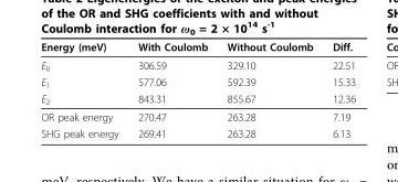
<table><thead><tr><td>Energy (meV)</td><td>With Coulomb</td><td>Without Coulomb</td><td>Diff.</td></tr></thead><tbody><tr><td>E<sub>0</sub></td><td>306.59</td><td>329.10</td><td>22.51</td></tr><tr><td>E<sub>1</sub></td><td>577.06</td><td>592.39</td><td>15.33</td></tr><tr><td>E<sub>2</sub></td><td>843.31</td><td>855.67</td><td>12.36</td></tr><tr><td>OR peak energy</td><td>270.47</td><td>263.28</td><td>7.19</td></tr><tr><td>SHG peak energy</td><td>269.41</td><td>263.28</td><td>6.13</td></tr></tbody></table>